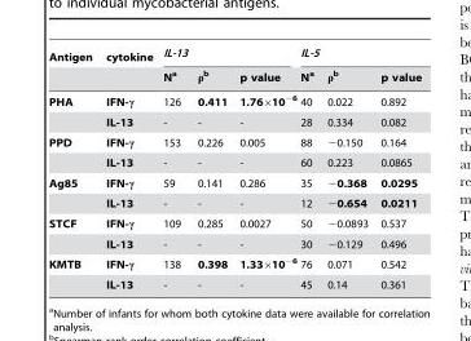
<table><thead><tr><td rowspan="2">Antigen</td><td rowspan="2">cytokine</td><td colspan="3">IL-13</td><td colspan="3">IL-5</td></tr><tr><td>N<sup>a</sup></td><td>ρ<sup>b</sup></td><td>p value</td><td>N<sup>a</sup></td><td>ρ<sup>b</sup></td><td>p value</td></tr></thead><tbody><tr><td rowspan="2">PHA</td><td>IFN-γ</td><td>126</td><td>0.411</td><td>1.76×10<sup>−6</sup></td><td>40</td><td>0.022</td><td>0.892</td></tr><tr><td>IL-13</td><td>-</td><td>-</td><td>-</td><td>28</td><td>0.334</td><td>0.082</td></tr><tr><td rowspan="2">PPD</td><td>IFN-γ</td><td>153</td><td>0.226</td><td>0.005</td><td>88</td><td>−0.150</td><td>0.164</td></tr><tr><td>IL-13</td><td>-</td><td>-</td><td>-</td><td>60</td><td>0.223</td><td>0.0865</td></tr><tr><td rowspan="2">Ag85</td><td>IFN-γ</td><td>59</td><td>0.141</td><td>0.286</td><td>35</td><td>−0.368</td><td>0.0295</td></tr><tr><td>IL-13</td><td>-</td><td>-</td><td>-</td><td>12</td><td>−0.654</td><td>0.0211</td></tr><tr><td rowspan="2">STCF</td><td>IFN-γ</td><td>109</td><td>0.285</td><td>0.0027</td><td>50</td><td>−0.0893</td><td>0.537</td></tr><tr><td>IL-13</td><td>-</td><td>-</td><td>-</td><td>30</td><td>−0.129</td><td>0.496</td></tr><tr><td rowspan="2">KMTB</td><td>IFN-γ</td><td>138</td><td>0.398</td><td>1.33×10<sup>−6</sup></td><td>76</td><td>0.071</td><td>0.542</td></tr><tr><td>IL-13</td><td>-</td><td>-</td><td>-</td><td>45</td><td>0.14</td><td>0.361</td></tr></tbody></table>